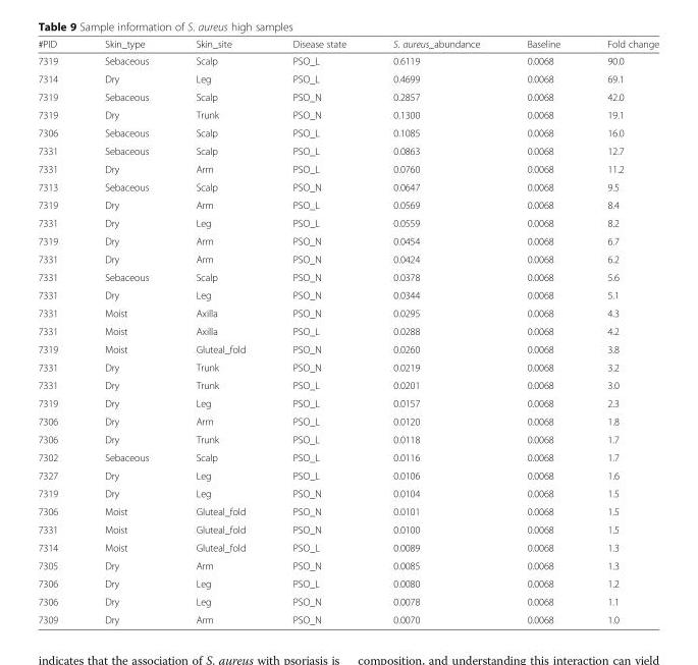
<table><thead><tr><td>#PID</td><td>Skin_type</td><td>Skin_site</td><td>Disease state</td><td>S. aureus_abundance</td><td>Baseline</td><td>Fold change</td></tr></thead><tbody><tr><td>7319</td><td>Sebaceous</td><td>Scalp</td><td>PSO_L</td><td>0.6119</td><td>0.0068</td><td>90.0</td></tr><tr><td>7314</td><td>Dry</td><td>Leg</td><td>PSO_L</td><td>0.4699</td><td>0.0068</td><td>69.1</td></tr><tr><td>7319</td><td>Sebaceous</td><td>Scalp</td><td>PSO_N</td><td>0.2857</td><td>0.0068</td><td>42.0</td></tr><tr><td>7319</td><td>Dry</td><td>Trunk</td><td>PSO_N</td><td>0.1300</td><td>0.0068</td><td>19.1</td></tr><tr><td>7306</td><td>Sebaceous</td><td>Scalp</td><td>PSO_L</td><td>0.1085</td><td>0.0068</td><td>16.0</td></tr><tr><td>7331</td><td>Sebaceous</td><td>Scalp</td><td>PSO_L</td><td>0.0863</td><td>0.0068</td><td>12.7</td></tr><tr><td>7331</td><td>Dry</td><td>Arm</td><td>PSO_L</td><td>0.0760</td><td>0.0068</td><td>11.2</td></tr><tr><td>7313</td><td>Sebaceous</td><td>Scalp</td><td>PSO_N</td><td>0.0647</td><td>0.0068</td><td>9.5</td></tr><tr><td>7319</td><td>Dry</td><td>Arm</td><td>PSO_L</td><td>0.0569</td><td>0.0068</td><td>8.4</td></tr><tr><td>7331</td><td>Dry</td><td>Leg</td><td>PSO_L</td><td>0.0559</td><td>0.0068</td><td>8.2</td></tr><tr><td>7319</td><td>Dry</td><td>Arm</td><td>PSO_N</td><td>0.0454</td><td>0.0068</td><td>6.7</td></tr><tr><td>7331</td><td>Dry</td><td>Arm</td><td>PSO_N</td><td>0.0424</td><td>0.0068</td><td>6.2</td></tr><tr><td>7331</td><td>Sebaceous</td><td>Scalp</td><td>PSO_N</td><td>0.0378</td><td>0.0068</td><td>5.6</td></tr><tr><td>7331</td><td>Dry</td><td>Leg</td><td>PSO_N</td><td>0.0344</td><td>0.0068</td><td>5.1</td></tr><tr><td>7331</td><td>Moist</td><td>Axilla</td><td>PSO_N</td><td>0.0295</td><td>0.0068</td><td>4.3</td></tr><tr><td>7331</td><td>Moist</td><td>Axilla</td><td>PSO_L</td><td>0.0288</td><td>0.0068</td><td>4.2</td></tr><tr><td>7319</td><td>Moist</td><td>Gluteal_fold</td><td>PSO_N</td><td>0.0260</td><td>0.0068</td><td>3.8</td></tr><tr><td>7331</td><td>Dry</td><td>Trunk</td><td>PSO_N</td><td>0.0219</td><td>0.0068</td><td>3.2</td></tr><tr><td>7331</td><td>Dry</td><td>Trunk</td><td>PSO_L</td><td>0.0201</td><td>0.0068</td><td>3.0</td></tr><tr><td>7319</td><td>Dry</td><td>Leg</td><td>PSO_L</td><td>0.0157</td><td>0.0068</td><td>2.3</td></tr><tr><td>7306</td><td>Dry</td><td>Arm</td><td>PSO_L</td><td>0.0120</td><td>0.0068</td><td>1.8</td></tr><tr><td>7306</td><td>Dry</td><td>Trunk</td><td>PSO_L</td><td>0.0118</td><td>0.0068</td><td>1.7</td></tr><tr><td>7302</td><td>Sebaceous</td><td>Scalp</td><td>PSO_L</td><td>0.0116</td><td>0.0068</td><td>1.7</td></tr><tr><td>7327</td><td>Dry</td><td>Leg</td><td>PSO_L</td><td>0.0106</td><td>0.0068</td><td>1.6</td></tr><tr><td>7319</td><td>Dry</td><td>Leg</td><td>PSO_N</td><td>0.0104</td><td>0.0068</td><td>1.5</td></tr><tr><td>7306</td><td>Moist</td><td>Gluteal_fold</td><td>PSO_N</td><td>0.0101</td><td>0.0068</td><td>1.5</td></tr><tr><td>7331</td><td>Moist</td><td>Gluteal_fold</td><td>PSO_N</td><td>0.0100</td><td>0.0068</td><td>1.5</td></tr><tr><td>7314</td><td>Moist</td><td>Gluteal_fold</td><td>PSO_L</td><td>0.0089</td><td>0.0068</td><td>1.3</td></tr><tr><td>7305</td><td>Dry</td><td>Arm</td><td>PSO_N</td><td>0.0085</td><td>0.0068</td><td>1.3</td></tr><tr><td>7306</td><td>Dry</td><td>Leg</td><td>PSO_L</td><td>0.0080</td><td>0.0068</td><td>1.2</td></tr><tr><td>7306</td><td>Dry</td><td>Leg</td><td>PSO_N</td><td>0.0078</td><td>0.0068</td><td>1.1</td></tr><tr><td>7309</td><td>Dry</td><td>Arm</td><td>PSO_N</td><td>0.0070</td><td>0.0068</td><td>1.0</td></tr></tbody></table>